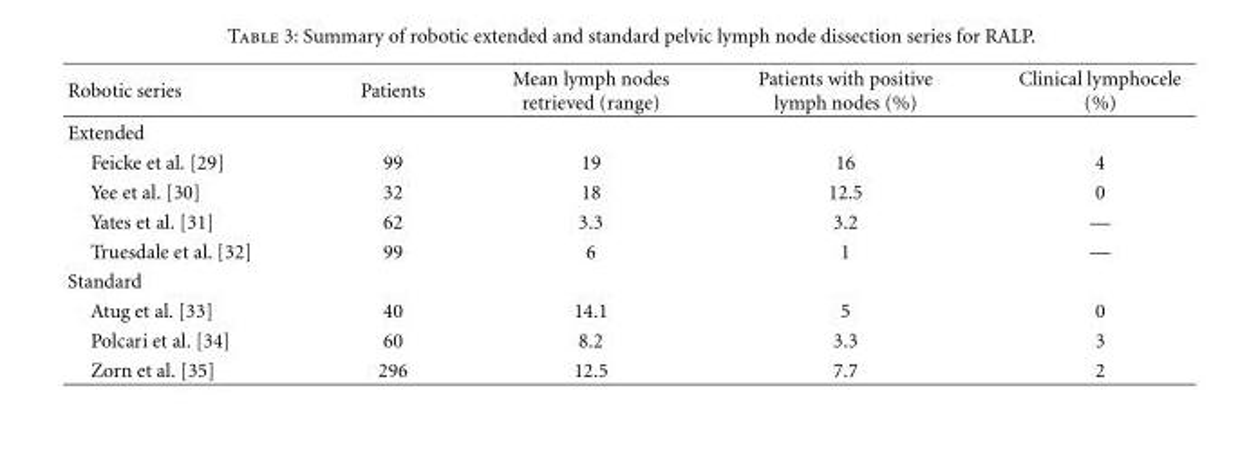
<table><thead><tr><td>Robotic series</td><td>Patients</td><td>Mean lymph nodes retrieved (range)</td><td>Patients with positive lymph nodes (%)</td><td>Clinical lymphocele (%)</td></tr></thead><tbody><tr><td colspan="5">Extended</td></tr><tr><td>Feicke et al. [29]</td><td>99</td><td>19</td><td>16</td><td>4</td></tr><tr><td>Yee et al. [30]</td><td>32</td><td>18</td><td>12.5</td><td>0</td></tr><tr><td>Yates et al. [31]</td><td>62</td><td>3.3</td><td>3.2</td><td>—</td></tr><tr><td>Truesdale et al. [32]</td><td>99</td><td>6</td><td>1</td><td>—</td></tr><tr><td colspan="5">Standard</td></tr><tr><td>Atug et al. [33]</td><td>40</td><td>14.1</td><td>5</td><td>0</td></tr><tr><td>Polcari et al. [34]</td><td>60</td><td>8.2</td><td>3.3</td><td>3</td></tr><tr><td>Zorn et al. [35]</td><td>296</td><td>12.5</td><td>7.7</td><td>2</td></tr></tbody></table>